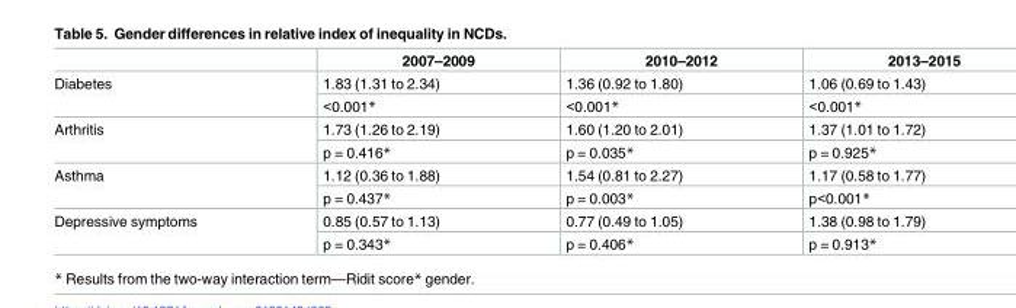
<table><thead><tr><td></td><td>2007–2009</td><td>2010–2012</td><td>2013–2015</td></tr></thead><tbody><tr><td rowspan="2">Diabetes</td><td>1.83 (1.31 to 2.34)</td><td>1.36 (0.92 to 1.80)</td><td>1.06 (0.69 to 1.43)</td></tr><tr><td>&lt;0.001*</td><td>&lt;0.001*</td><td>&lt;0.001*</td></tr><tr><td rowspan="2">Arthritis</td><td>1.73 (1.26 to 2.19)</td><td>1.60 (1.20 to 2.01)</td><td>1.37 (1.01 to 1.72)</td></tr><tr><td>p = 0.416*</td><td>p = 0.035*</td><td>p = 0.925*</td></tr><tr><td rowspan="2">Asthma</td><td>1.12 (0.36 to 1.88)</td><td>1.54 (0.81 to 2.27)</td><td>1.17 (0.58 to 1.77)</td></tr><tr><td>p = 0.437*</td><td>p = 0.003*</td><td>p&lt;0.001*</td></tr><tr><td rowspan="2">Depressive symptoms</td><td>0.85 (0.57 to 1.13)</td><td>0.77 (0.49 to 1.05)</td><td>1.38 (0.98 to 1.79)</td></tr><tr><td>p = 0.343*</td><td>p = 0.406*</td><td>p = 0.913*</td></tr></tbody></table>